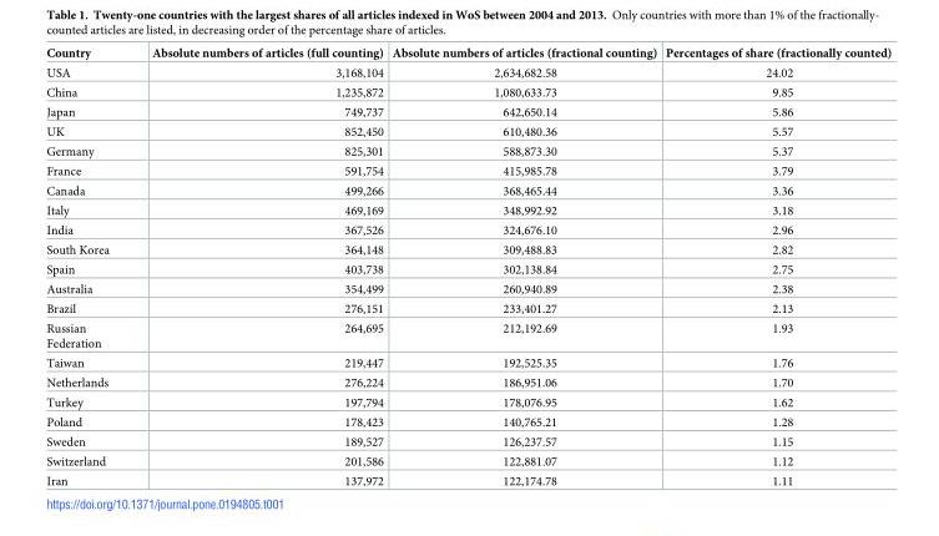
<table><thead><tr><td>Country</td><td>Absolute numbers of articles (full counting)</td><td>Absolute numbers of articles (fractional counting)</td><td>Percentages of share (fractionally counted)</td></tr></thead><tbody><tr><td>USA</td><td>3,168,104</td><td>2,634,682.58</td><td>24.02</td></tr><tr><td>China</td><td>1,235,872</td><td>1,080,633.73</td><td>9.85</td></tr><tr><td>Japan</td><td>749,737</td><td>642,650.14</td><td>5.86</td></tr><tr><td>UK</td><td>852,450</td><td>610,480.36</td><td>5.57</td></tr><tr><td>Germany</td><td>825,301</td><td>588,873.30</td><td>5.37</td></tr><tr><td>France</td><td>591,754</td><td>415,985.78</td><td>3.79</td></tr><tr><td>Canada</td><td>499,266</td><td>368,465.44</td><td>3.36</td></tr><tr><td>Italy</td><td>469,169</td><td>348,992.92</td><td>3.18</td></tr><tr><td>India</td><td>367,526</td><td>324,676.10</td><td>2.96</td></tr><tr><td>South Korea</td><td>364,148</td><td>309,488.83</td><td>2.82</td></tr><tr><td>Spain</td><td>403,738</td><td>302,138.84</td><td>2.75</td></tr><tr><td>Australia</td><td>354,499</td><td>260,940.89</td><td>2.38</td></tr><tr><td>Brazil</td><td>276,151</td><td>233,401.27</td><td>2.13</td></tr><tr><td>Russian Federation</td><td>264,695</td><td>212,192.69</td><td>1.93</td></tr><tr><td>Taiwan</td><td>219,447</td><td>192,525.35</td><td>1.76</td></tr><tr><td>Netherlands</td><td>276,224</td><td>186,951.06</td><td>1.70</td></tr><tr><td>Turkey</td><td>197,794</td><td>178,076.95</td><td>1.62</td></tr><tr><td>Poland</td><td>178,423</td><td>140,765.21</td><td>1.28</td></tr><tr><td>Sweden</td><td>189,527</td><td>126,237.57</td><td>1.15</td></tr><tr><td>Switzerland</td><td>201,586</td><td>122,881.07</td><td>1.12</td></tr><tr><td>Iran</td><td>137,972</td><td>122,174.78</td><td>1.11</td></tr></tbody></table>